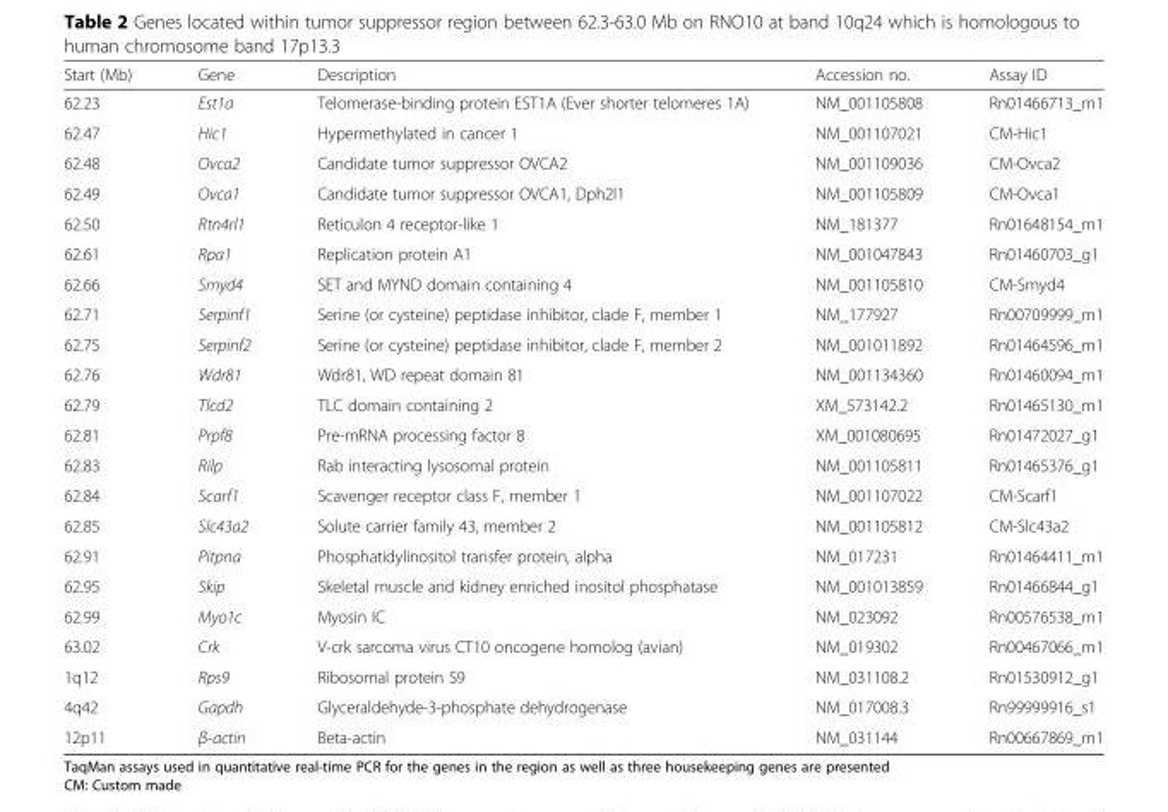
<table><thead><tr><td>Start (Mb)</td><td>Gene</td><td>Description</td><td>Accession no.</td><td>Assay ID</td></tr></thead><tbody><tr><td>62.23</td><td>Est1a</td><td>Telomerase-binding protein EST1A (Ever shorter telomeres 1A)</td><td>NM_001105808</td><td>Rn01466713_m1</td></tr><tr><td>62.47</td><td>Hic1</td><td>Hypermethylated in cancer 1</td><td>NM_001107021</td><td>CM-Hic1</td></tr><tr><td>62.48</td><td>Ovca2</td><td>Candidate tumor suppressor OVCA2</td><td>NM_001109036</td><td>CM-Ovca2</td></tr><tr><td>62.49</td><td>Ovca1</td><td>Candidate tumor suppressor OVCA1, Dph2l1</td><td>NM_001105809</td><td>CM-Ovca1</td></tr><tr><td>62.50</td><td>Rtn4rl1</td><td>Reticulon 4 receptor-like 1</td><td>NM_181377</td><td>Rn01648154_m1</td></tr><tr><td>62.61</td><td>Rpa1</td><td>Replication protein A1</td><td>NM_001047843</td><td>Rn01460703_g1</td></tr><tr><td>62.66</td><td>Smyd4</td><td>SET and MYND domain containing 4</td><td>NM_001105810</td><td>CM-Smyd4</td></tr><tr><td>62.71</td><td>Serpinf1</td><td>Serine (or cysteine) peptidase inhibitor, clade F, member 1</td><td>NM_177927</td><td>Rn00709999_m1</td></tr><tr><td>62.75</td><td>Serpinf2</td><td>Serine (or cysteine) peptidase inhibitor, clade F, member 2</td><td>NM_001011892</td><td>Rn01464596_m1</td></tr><tr><td>62.76</td><td>Wdr81</td><td>Wdr81, WD repeat domain 81</td><td>NM_001134360</td><td>Rn01460094_m1</td></tr><tr><td>62.79</td><td>Tlcd2</td><td>TLC domain containing 2</td><td>XM_573142.2</td><td>Rn01465130_m1</td></tr><tr><td>62.81</td><td>Prpf8</td><td>Pre-mRNA processing factor 8</td><td>XM_001080695</td><td>Rn01472027_g1</td></tr><tr><td>62.83</td><td>Rilp</td><td>Rab interacting lysosomal protein</td><td>NM_001105811</td><td>Rn01465376_g1</td></tr><tr><td>62.84</td><td>Scarf1</td><td>Scavenger receptor class F, member 1</td><td>NM_001107022</td><td>CM-Scarf1</td></tr><tr><td>62.85</td><td>Slc43a2</td><td>Solute carrier family 43, member 2</td><td>NM_001105812</td><td>CM-Slc43a2</td></tr><tr><td>62.91</td><td>Pitpna</td><td>Phosphatidylinositol transfer protein, alpha</td><td>NM_017231</td><td>Rn01464411_m1</td></tr><tr><td>62.95</td><td>Skip</td><td>Skeletal muscle and kidney enriched inositol phosphatase</td><td>NM_001013859</td><td>Rn01466844_g1</td></tr><tr><td>62.99</td><td>Myo1c</td><td>Myosin IC</td><td>NM_023092</td><td>Rn00576538_m1</td></tr><tr><td>63.02</td><td>Crk</td><td>V-crk sarcoma virus CT10 oncogene homolog (avian)</td><td>NM_019302</td><td>Rn00467066_m1</td></tr><tr><td>1q12</td><td>Rps9</td><td>Ribosomal protein S9</td><td>NM_031108.2</td><td>Rn01530912_g1</td></tr><tr><td>4q42</td><td>Gapdh</td><td>Glyceraldehyde-3-phosphate dehydrogenase</td><td>NM_017008.3</td><td>Rn99999916_s1</td></tr><tr><td>12p11</td><td>β-actin</td><td>Beta-actin</td><td>NM_031144</td><td>Rn00667869_m1</td></tr></tbody></table>